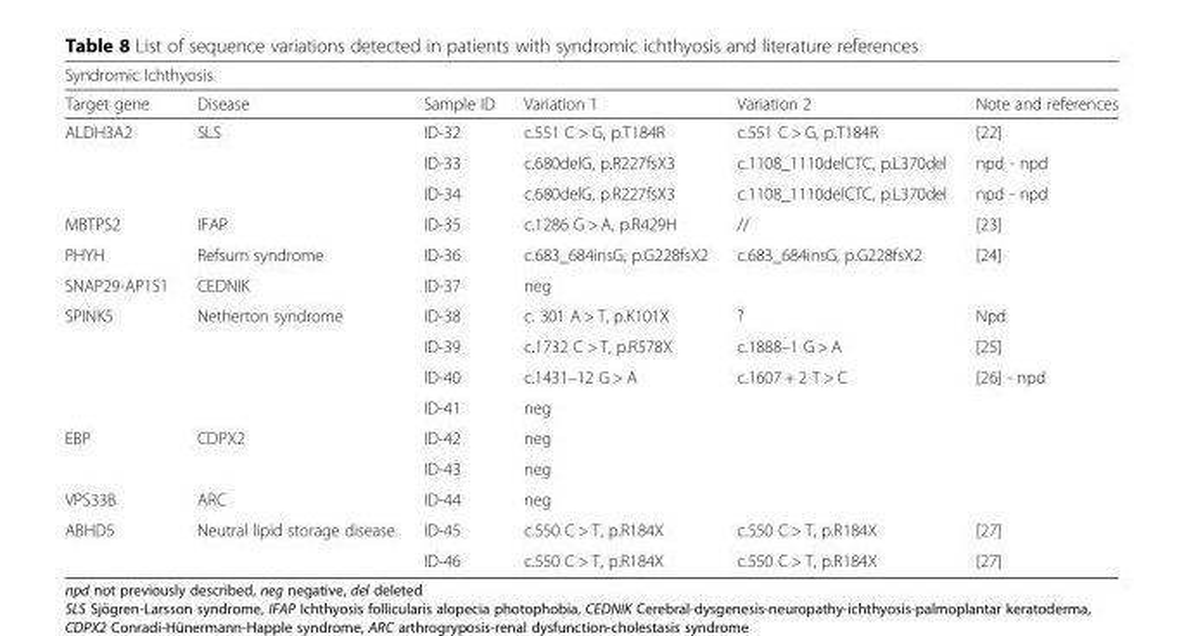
<table><thead><tr><td colspan="6">Syndromic Ichthyosis</td></tr><tr><td>Target gene</td><td>Disease</td><td>Sample ID</td><td>Variation 1</td><td>Variation 2</td><td>Note and references</td></tr></thead><tbody><tr><td rowspan="3">ALDH3A2</td><td rowspan="3">SLS</td><td>ID-32</td><td>c.551 C &gt; G, p.T184R</td><td>c.551 C &gt; G, p.T184R</td><td>[22]</td></tr><tr><td>ID-33</td><td>c.680delG, p.R227fsX3</td><td>c.1108_1110delCTC, p.L370del</td><td>npd - npd</td></tr><tr><td>ID-34</td><td>c.680delG, p.R227fsX3</td><td>c.1108_1110delCTC, p.L370del</td><td>npd - npd</td></tr><tr><td>MBTPS2</td><td>IFAP</td><td>ID-35</td><td>c.1286 G &gt; A, p.R429H</td><td>//</td><td>[23]</td></tr><tr><td>PHYH</td><td>Refsum syndrome</td><td>ID-36</td><td>c.683_684insG, p.G228fsX2</td><td>c.683_684insG, p.G228fsX2</td><td>[24]</td></tr><tr><td>SNAP29-AP1S1</td><td>CEDNIK</td><td>ID-37</td><td>neg</td><td></td><td></td></tr><tr><td rowspan="4">SPINK5</td><td rowspan="4">Netherton syndrome</td><td>ID-38</td><td>c. 301 A &gt; T, p.K101X</td><td>?</td><td>Npd</td></tr><tr><td>ID-39</td><td>c.1732 C &gt; T, p.R578X</td><td>c.1888–1 G &gt; A</td><td>[25]</td></tr><tr><td>ID-40</td><td>c.1431–12 G &gt; A</td><td>c.1607 + 2 T &gt; C</td><td>[26] - npd</td></tr><tr><td>ID-41</td><td>neg</td><td></td><td></td></tr><tr><td rowspan="2">EBP</td><td rowspan="2">CDPX2</td><td>ID-42</td><td>neg</td><td></td><td></td></tr><tr><td>ID-43</td><td>neg</td><td></td><td></td></tr><tr><td>VPS33B</td><td>ARC</td><td>ID-44</td><td>neg</td><td></td><td></td></tr><tr><td rowspan="2">ABHD5</td><td rowspan="2">Neutral lipid storage disease</td><td>ID-45</td><td>c.550 C &gt; T, p.R184X</td><td>c.550 C &gt; T, p.R184X</td><td>[27]</td></tr><tr><td>ID-46</td><td>c.550 C &gt; T, p.R184X</td><td>c.550 C &gt; T, p.R184X</td><td>[27]</td></tr></tbody></table>